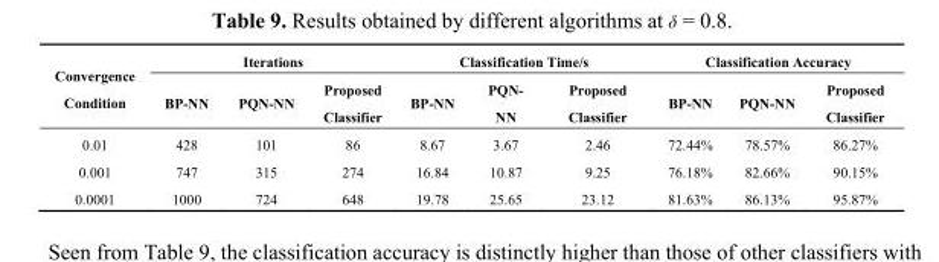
<table><thead><tr><td rowspan="2">Convergence Condition</td><td colspan="3">Iterations</td><td colspan="3">Classification Time/s</td><td colspan="3">Classification Accuracy</td></tr><tr><td>BP-NN</td><td>PQN-NN</td><td>Proposed Classifier</td><td>BP-NN</td><td>PQN- NN</td><td>Proposed Classifier</td><td>BP-NN</td><td>PQN-NN</td><td>Proposed Classifier</td></tr></thead><tbody><tr><td>0.01</td><td>428</td><td>101</td><td>86</td><td>8.67</td><td>3.67</td><td>2.46</td><td>72.44%</td><td>78.57%</td><td>86.27%</td></tr><tr><td>0.001</td><td>747</td><td>315</td><td>274</td><td>16.84</td><td>10.87</td><td>9.25</td><td>76.18%</td><td>82.66%</td><td>90.15%</td></tr><tr><td>0.0001</td><td>1000</td><td>724</td><td>648</td><td>19.78</td><td>25.65</td><td>23.12</td><td>81.63%</td><td>86.13%</td><td>95.87%</td></tr></tbody></table>